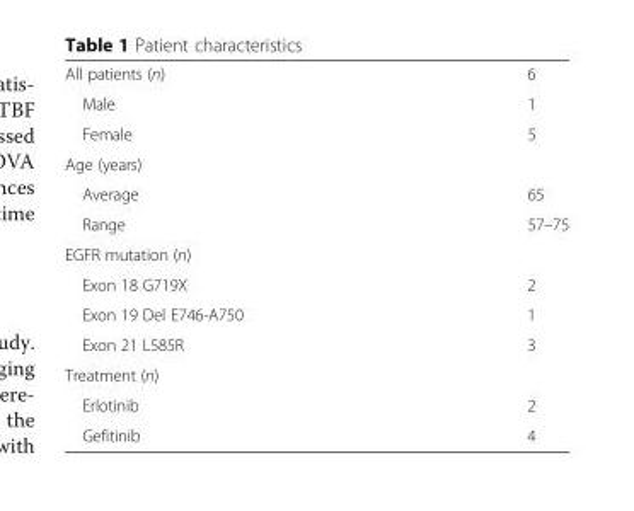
<table><tbody><tr><td>All patients (n)</td><td>6</td></tr><tr><td>Male</td><td>1</td></tr><tr><td>Female</td><td>5</td></tr><tr><td colspan="2">Age (years)</td></tr><tr><td>Average</td><td>65</td></tr><tr><td>Range</td><td>57–75</td></tr><tr><td colspan="2">EGFR mutation (n)</td></tr><tr><td>Exon 18 G719X</td><td>2</td></tr><tr><td>Exon 19 Del E746-A750</td><td>1</td></tr><tr><td>Exon 21 L585R</td><td>3</td></tr><tr><td colspan="2">Treatment (n)</td></tr><tr><td>Erlotinib</td><td>2</td></tr><tr><td>Gefitinib</td><td>4</td></tr></tbody></table>